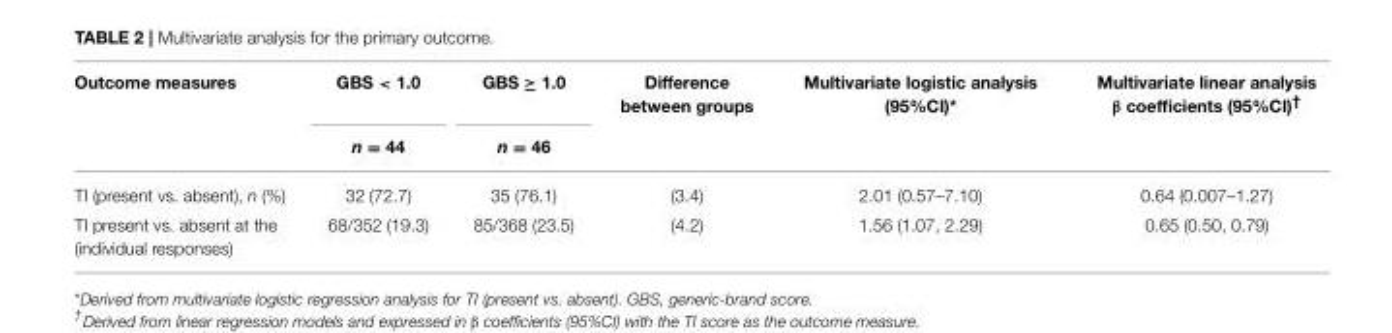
<table><thead><tr><td rowspan="2">Outcome measures</td><td rowspan="2">GBS &lt; 1.0 n = 44</td><td rowspan="2">GBS ≥ 1.0 n = 46</td><td rowspan="2">Difference between groups</td><td rowspan="2">Multivariate logistic analysis (95%CI)*</td><td rowspan="2">Multivariate linear analysis β coefficients (95%CI)<sup>†</sup></td></tr><tr></tr></thead><tbody><tr><td>TI (present vs. absent), n (%)</td><td>32 (72.7)</td><td>35 (76.1)</td><td>(3.4)</td><td>2.01 (0.57–7.10)</td><td>0.64 (0.007–1.27)</td></tr><tr><td>TI present vs. absent at the (individual responses)</td><td>68/352 (19.3)</td><td>85/368 (23.5)</td><td>(4.2)</td><td>1.56 (1.07, 2.29)</td><td>0.65 (0.50, 0.79)</td></tr></tbody></table>